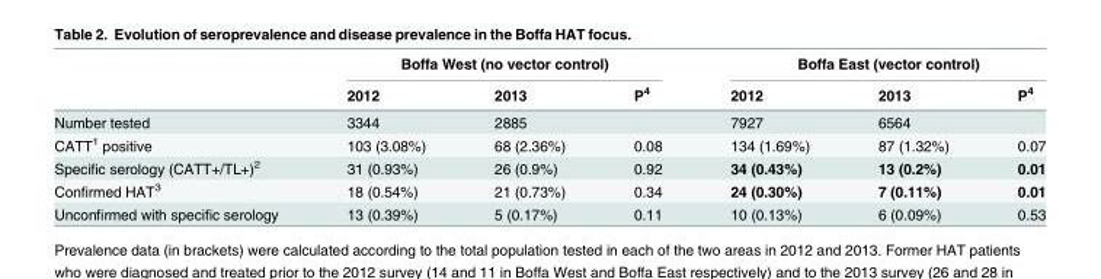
<table><thead><tr><td rowspan="2"></td><td colspan="3">Boffa West (no vector control)</td><td colspan="3">Boffa East (vector control)</td></tr><tr><td>2012</td><td>2013</td><td>P<sup>4</sup></td><td>2012</td><td>2013</td><td>P<sup>4</sup></td></tr></thead><tbody><tr><td>Number tested</td><td>3344</td><td>2885</td><td></td><td>7927</td><td>6564</td><td></td></tr><tr><td>CATT<sup>1</sup> positive</td><td>103 (3.08%)</td><td>68 (2.36%)</td><td>0.08</td><td>134 (1.69%)</td><td>87 (1.32%)</td><td>0.07</td></tr><tr><td>Specific serology (CATT+/TL+)<sup>2</sup></td><td>31 (0.93%)</td><td>26 (0.9%)</td><td>0.92</td><td>34 (0.43%)</td><td>13 (0.2%)</td><td>0.01</td></tr><tr><td>Confirmed HAT<sup>3</sup></td><td>18 (0.54%)</td><td>21 (0.73%)</td><td>0.34</td><td>24 (0.30%)</td><td>7 (0.11%)</td><td>0.01</td></tr><tr><td>Unconfirmed with specific serology</td><td>13 (0.39%)</td><td>5 (0.17%)</td><td>0.11</td><td>10 (0.13%)</td><td>6 (0.09%)</td><td>0.53</td></tr></tbody></table>